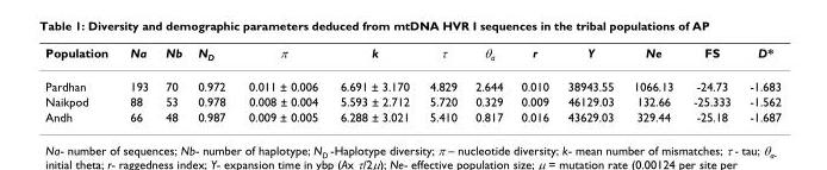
<table><thead><tr><td>Population</td><td>Na</td><td>Nb</td><td>N<sub>D</sub></td><td>π</td><td>k</td><td>τ</td><td>θ<sub>a</sub></td><td>r</td><td>Y</td><td>Ne</td><td>FS</td><td>D*</td></tr></thead><tbody><tr><td>Pardhan</td><td>193</td><td>70</td><td>0.972</td><td>0.011 ± 0.006</td><td>6.691 ± 3.170</td><td>4.829</td><td>2.644</td><td>0.010</td><td>38943.55</td><td>1066.13</td><td>-24.73</td><td>-1.683</td></tr><tr><td>Naikpod</td><td>88</td><td>53</td><td>0.978</td><td>0.008 ± 0.004</td><td>5.593 ± 2.712</td><td>5.720</td><td>0.329</td><td>0.009</td><td>46129.03</td><td>132.66</td><td>-25.333</td><td>-1.562</td></tr><tr><td>Andh</td><td>66</td><td>48</td><td>0.987</td><td>0.009 ± 0.005</td><td>6.288 ± 3.021</td><td>5.410</td><td>0.817</td><td>0.016</td><td>43629.03</td><td>329.44</td><td>-25.18</td><td>-1.687</td></tr></tbody></table>